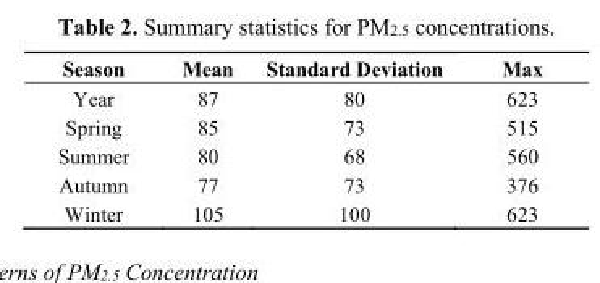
<table><thead><tr><td>Season</td><td>Mean</td><td>Standard Deviation</td><td>Max</td></tr></thead><tbody><tr><td>Year</td><td>87</td><td>80</td><td>623</td></tr><tr><td>Spring</td><td>85</td><td>73</td><td>515</td></tr><tr><td>Summer</td><td>80</td><td>68</td><td>560</td></tr><tr><td>Autumn</td><td>77</td><td>73</td><td>376</td></tr><tr><td>Winter</td><td>105</td><td>100</td><td>623</td></tr></tbody></table>